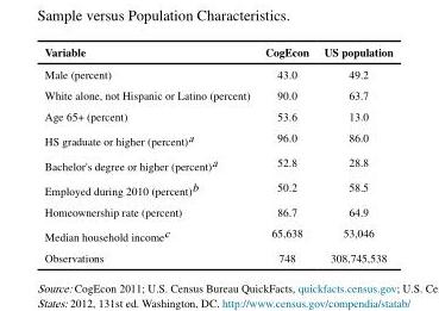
<table><thead><tr><td>Variable</td><td>CogEcon</td><td>US population</td></tr></thead><tbody><tr><td>Male (percent)</td><td>43.0</td><td>49.2</td></tr><tr><td>White alone, not Hispanic or Latino (percent)</td><td>90.0</td><td>63.7</td></tr><tr><td>Age 65+ (percent)</td><td>53.6</td><td>13.0</td></tr><tr><td>HS graduate or higher (percent)<sup>a</sup></td><td>96.0</td><td>86.0</td></tr><tr><td>Bachelor&#x27;s degree or higher (percent)<sup>a</sup></td><td>52.8</td><td>28.8</td></tr><tr><td>Employed during 2010 (percent)<sup>b</sup></td><td>50.2</td><td>58.5</td></tr><tr><td>Homeownership rate (percent)</td><td>86.7</td><td>64.9</td></tr><tr><td>Median household income<sup>c</sup></td><td>65,638</td><td>53,046</td></tr><tr><td>Observations</td><td>748</td><td>308,745,538</td></tr></tbody></table>